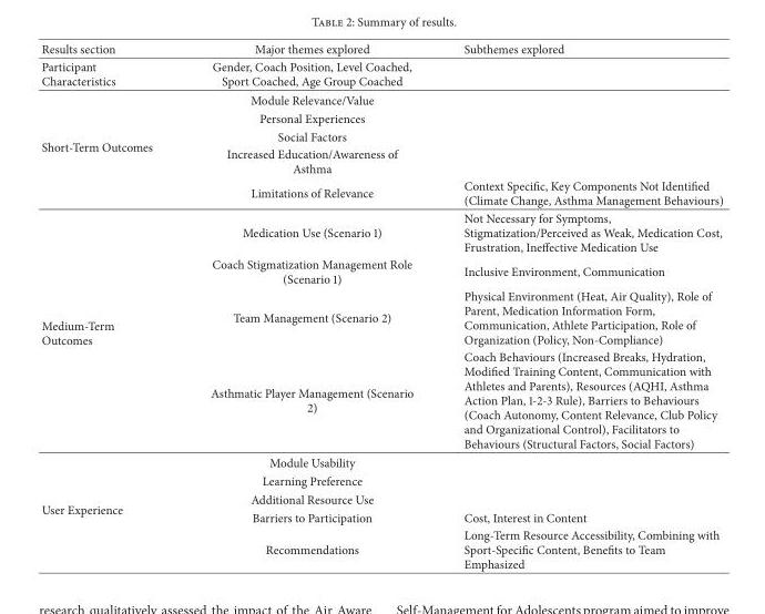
<table><thead><tr><td>Results section</td><td>Major themes explored</td><td>Subthemes explored</td></tr></thead><tbody><tr><td>Participant Characteristics</td><td>Gender, Coach Position, Level Coached, Sport Coached, Age Group Coached</td><td></td></tr><tr><td rowspan="5">Short-Term Outcomes</td><td>Module Relevance/Value</td><td></td></tr><tr><td>Personal Experiences</td><td></td></tr><tr><td>Social Factors</td><td></td></tr><tr><td>Increased Education/Awareness of Asthma</td><td></td></tr><tr><td>Limitations of Relevance</td><td>Context Specific, Key Components Not Identified (Climate Change, Asthma Management Behaviours)</td></tr><tr><td rowspan="4">Medium-Term Outcomes</td><td>Medication Use (Scenario 1)</td><td>Not Necessary for Symptoms, Stigmatization/Perceived as Weak, Medication Cost, Frustration, Ineffective Medication Use</td></tr><tr><td>Coach Stigmatization Management Role (Scenario 1)</td><td>Inclusive Environment, Communication</td></tr><tr><td>Team Management (Scenario 2)</td><td>Physical Environment (Heat, Air Quality), Role of Parent, Medication Information Form, Communication, Athlete Participation, Role of Organization (Policy, Non-Compliance)</td></tr><tr><td>Asthmatic Player Management (Scenario 2)</td><td>Coach Behaviours (Increased Breaks, Hydration, Modified Training Content, Communication with Athletes and Parents), Resources (AQHI, Asthma Action Plan, 1-2-3 Rule), Barriers to Behaviours (Coach Autonomy, Content Relevance, Club Policy and Organizational Control), Facilitators to Behaviours (Structural Factors, Social Factors)</td></tr><tr><td rowspan="5">User Experience</td><td>Module Usability</td><td></td></tr><tr><td>Learning Preference</td><td></td></tr><tr><td>Additional Resource Use</td><td></td></tr><tr><td>Barriers to Participation</td><td>Cost, Interest in Content</td></tr><tr><td>Recommendations</td><td>Long-Term Resource Accessibility, Combining with Sport-Specific Content, Benefits to Team Emphasized</td></tr></tbody></table>